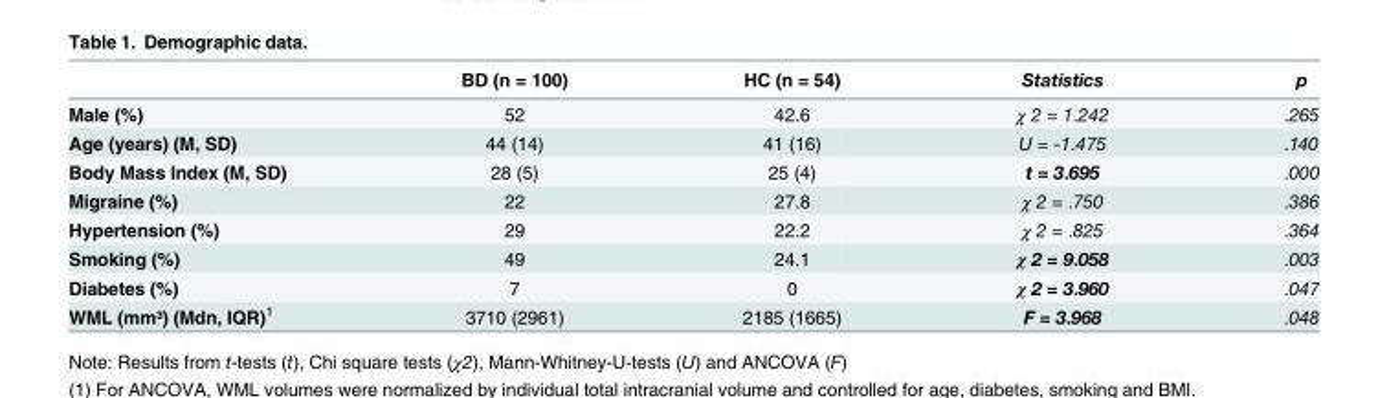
<table><thead><tr><td></td><td>BD (n = 100)</td><td>HC (n = 54)</td><td>Statistics</td><td>p</td></tr></thead><tbody><tr><td>Male (%)</td><td>52</td><td>42.6</td><td>χ 2 = 1.242</td><td>.265</td></tr><tr><td>Age (years) (M, SD)</td><td>44 (14)</td><td>41 (16)</td><td>U = -1.475</td><td>.140</td></tr><tr><td>Body Mass Index (M, SD)</td><td>28 (5)</td><td>25 (4)</td><td>t = 3.695</td><td>.000</td></tr><tr><td>Migraine (%)</td><td>22</td><td>27.8</td><td>χ 2 = .750</td><td>.386</td></tr><tr><td>Hypertension (%)</td><td>29</td><td>22.2</td><td>χ 2 = .825</td><td>.364</td></tr><tr><td>Smoking (%)</td><td>49</td><td>24.1</td><td>χ 2 = 9.058</td><td>.003</td></tr><tr><td>Diabetes (%)</td><td>7</td><td>0</td><td>χ 2 = 3.960</td><td>.047</td></tr><tr><td>WML (mm³) (Mdn, IQR)<sup>1</sup></td><td>3710 (2961)</td><td>2185 (1665)</td><td>F = 3.968</td><td>.048</td></tr></tbody></table>